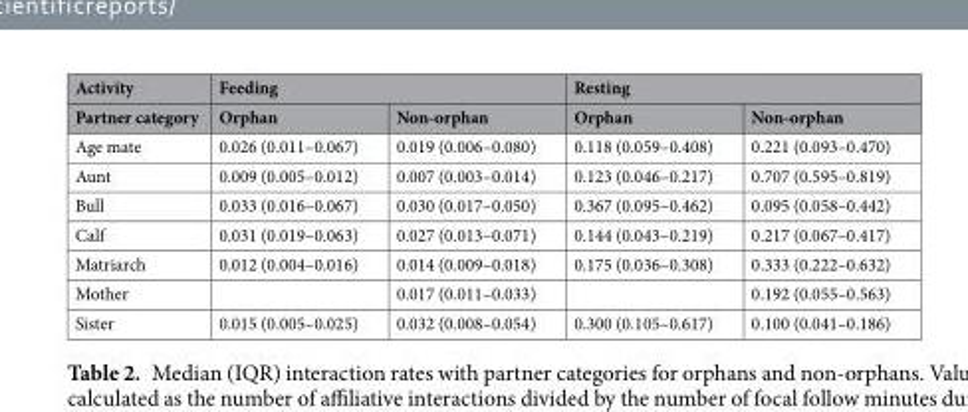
<table><thead><tr><td rowspan="2">Activity Partner category</td><td colspan="2">Feeding</td><td colspan="2">Resting</td></tr><tr><td>Orphan</td><td>Non-orphan</td><td>Orphan</td><td>Non-orphan</td></tr></thead><tbody><tr><td>Age mate</td><td>0.026 (0.011–0.067)</td><td>0.019 (0.006–0.080)</td><td>0.118 (0.059–0.408)</td><td>0.221 (0.093–0.470)</td></tr><tr><td>Aunt</td><td>0.009 (0.005–0.012)</td><td>0.007 (0.003–0.014)</td><td>0.123 (0.046–0.217)</td><td>0.707 (0.595–0.819)</td></tr><tr><td>Bull</td><td>0.033 (0.016–0.067)</td><td>0.030 (0.017–0.050)</td><td>0.367 (0.095–0.462)</td><td>0.095 (0.058–0.442)</td></tr><tr><td>Calf</td><td>0.031 (0.019–0.063)</td><td>0.027 (0.013–0.071)</td><td>0.144 (0.043–0.219)</td><td>0.217 (0.067–0.417)</td></tr><tr><td>Matriarch</td><td>0.012 (0.004–0.016)</td><td>0.014 (0.009–0.018)</td><td>0.175 (0.036–0.308)</td><td>0.333 (0.222–0.632)</td></tr><tr><td>Mother</td><td></td><td>0.017 (0.011–0.033)</td><td></td><td>0.192 (0.055–0.563)</td></tr><tr><td>Sister</td><td>0.015 (0.005–0.025)</td><td>0.032 (0.008–0.054)</td><td>0.300 (0.105–0.617)</td><td>0.100 (0.041–0.186)</td></tr></tbody></table>